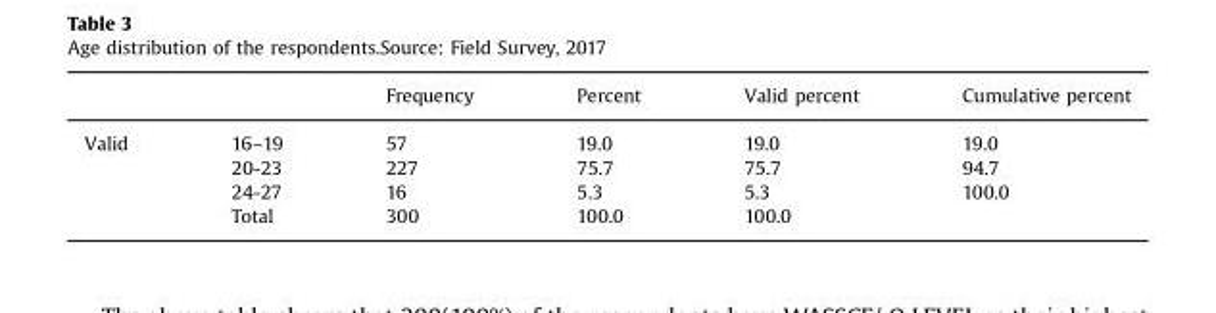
<table><thead><tr><td></td><td></td><td>Frequency</td><td>Percent</td><td>Valid percent</td><td>Cumulative percent</td></tr></thead><tbody><tr><td rowspan="4">Valid</td><td>16–19</td><td>57</td><td>19.0</td><td>19.0</td><td>19.0</td></tr><tr><td>20-23</td><td>227</td><td>75.7</td><td>75.7</td><td>94.7</td></tr><tr><td>24-27</td><td>16</td><td>5.3</td><td>5.3</td><td>100.0</td></tr><tr><td>Total</td><td>300</td><td>100.0</td><td>100.0</td><td></td></tr></tbody></table>